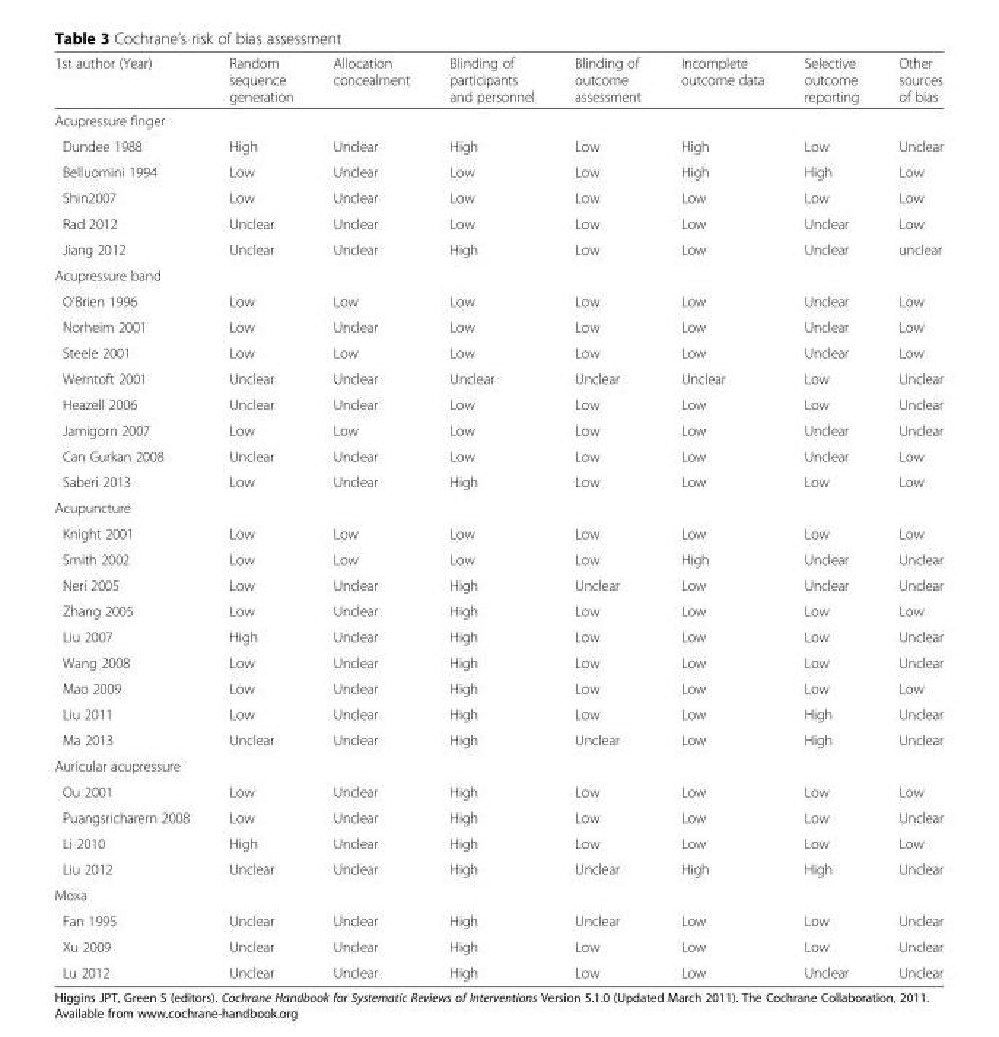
<table><thead><tr><td>1st author (Year)</td><td>Random sequence generation</td><td>Allocation concealment</td><td>Blinding of participants and personnel</td><td>Blinding of outcome assessment</td><td>Incomplete outcome data</td><td>Selective outcome reporting</td><td>Other sources of bias</td></tr></thead><tbody><tr><td colspan="8">Acupressure finger</td></tr><tr><td>Dundee 1988</td><td>High</td><td>Unclear</td><td>High</td><td>Low</td><td>High</td><td>Low</td><td>Unclear</td></tr><tr><td>Belluomini 1994</td><td>Low</td><td>Unclear</td><td>Low</td><td>Low</td><td>High</td><td>High</td><td>Low</td></tr><tr><td>Shin2007</td><td>Low</td><td>Unclear</td><td>Low</td><td>Low</td><td>Low</td><td>Low</td><td>Low</td></tr><tr><td>Rad 2012</td><td>Unclear</td><td>Unclear</td><td>Low</td><td>Low</td><td>Low</td><td>Unclear</td><td>Low</td></tr><tr><td>Jiang 2012</td><td>Unclear</td><td>Unclear</td><td>High</td><td>Low</td><td>Low</td><td>Unclear</td><td>unclear</td></tr><tr><td colspan="8">Acupressure band</td></tr><tr><td>O’Brien 1996</td><td>Low</td><td>Low</td><td>Low</td><td>Low</td><td>Low</td><td>Unclear</td><td>Low</td></tr><tr><td>Norheim 2001</td><td>Low</td><td>Unclear</td><td>Low</td><td>Low</td><td>Low</td><td>Unclear</td><td>Low</td></tr><tr><td>Steele 2001</td><td>Low</td><td>Low</td><td>Low</td><td>Low</td><td>Low</td><td>Unclear</td><td>Low</td></tr><tr><td>Werntoft 2001</td><td>Unclear</td><td>Unclear</td><td>Unclear</td><td>Unclear</td><td>Unclear</td><td>Low</td><td>Unclear</td></tr><tr><td>Heazell 2006</td><td>Unclear</td><td>Unclear</td><td>Low</td><td>Low</td><td>Low</td><td>Low</td><td>Unclear</td></tr><tr><td>Jamigorn 2007</td><td>Low</td><td>Low</td><td>Low</td><td>Low</td><td>Low</td><td>Unclear</td><td>Unclear</td></tr><tr><td>Can Gurkan 2008</td><td>Unclear</td><td>Unclear</td><td>Low</td><td>Low</td><td>Low</td><td>Unclear</td><td>Low</td></tr><tr><td>Saberi 2013</td><td>Low</td><td>Unclear</td><td>High</td><td>Low</td><td>Low</td><td>Low</td><td>Low</td></tr><tr><td colspan="8">Acupuncture</td></tr><tr><td>Knight 2001</td><td>Low</td><td>Low</td><td>Low</td><td>Low</td><td>Low</td><td>Low</td><td>Low</td></tr><tr><td>Smith 2002</td><td>Low</td><td>Low</td><td>Low</td><td>Low</td><td>High</td><td>Unclear</td><td>Unclear</td></tr><tr><td>Neri 2005</td><td>Low</td><td>Unclear</td><td>High</td><td>Unclear</td><td>Low</td><td>Unclear</td><td>Unclear</td></tr><tr><td>Zhang 2005</td><td>Low</td><td>Unclear</td><td>High</td><td>Low</td><td>Low</td><td>Low</td><td>Low</td></tr><tr><td>Liu 2007</td><td>High</td><td>Unclear</td><td>High</td><td>Low</td><td>Low</td><td>Low</td><td>Unclear</td></tr><tr><td>Wang 2008</td><td>Low</td><td>Unclear</td><td>High</td><td>Low</td><td>Low</td><td>Low</td><td>Unclear</td></tr><tr><td>Mao 2009</td><td>Low</td><td>Unclear</td><td>High</td><td>Low</td><td>Low</td><td>Low</td><td>Low</td></tr><tr><td>Liu 2011</td><td>Low</td><td>Unclear</td><td>High</td><td>Low</td><td>Low</td><td>High</td><td>Unclear</td></tr><tr><td>Ma 2013</td><td>Unclear</td><td>Unclear</td><td>High</td><td>Unclear</td><td>Low</td><td>High</td><td>Unclear</td></tr><tr><td colspan="8">Auricular acupressure</td></tr><tr><td>Ou 2001</td><td>Low</td><td>Unclear</td><td>High</td><td>Low</td><td>Low</td><td>Low</td><td>Low</td></tr><tr><td>Puangsricharern 2008</td><td>Low</td><td>Unclear</td><td>High</td><td>Low</td><td>Low</td><td>Low</td><td>Unclear</td></tr><tr><td>Li 2010</td><td>High</td><td>Unclear</td><td>High</td><td>Low</td><td>Low</td><td>Low</td><td>Low</td></tr><tr><td>Liu 2012</td><td>Unclear</td><td>Unclear</td><td>High</td><td>Unclear</td><td>High</td><td>High</td><td>Unclear</td></tr><tr><td colspan="8">Moxa</td></tr><tr><td>Fan 1995</td><td>Unclear</td><td>Unclear</td><td>High</td><td>Unclear</td><td>Low</td><td>Low</td><td>Unclear</td></tr><tr><td>Xu 2009</td><td>Unclear</td><td>Unclear</td><td>High</td><td>Low</td><td>Low</td><td>Low</td><td>Unclear</td></tr><tr><td>Lu 2012</td><td>Unclear</td><td>Unclear</td><td>High</td><td>Low</td><td>Low</td><td>Unclear</td><td>Unclear</td></tr></tbody></table>